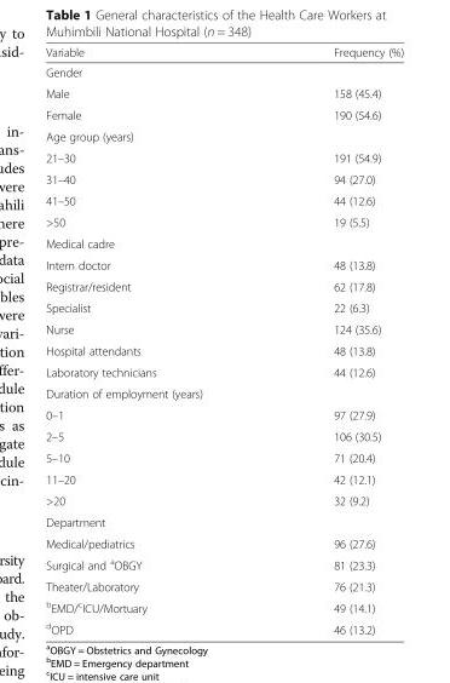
<table><thead><tr><td>Variable</td><td>Frequency (%)</td></tr></thead><tbody><tr><td colspan="2">Gender</td></tr><tr><td>Male</td><td>158 (45.4)</td></tr><tr><td>Female</td><td>190 (54.6)</td></tr><tr><td colspan="2">Age group (years)</td></tr><tr><td>21–30</td><td>191 (54.9)</td></tr><tr><td>31–40</td><td>94 (27.0)</td></tr><tr><td>41–50</td><td>44 (12.6)</td></tr><tr><td>&gt;50</td><td>19 (5.5)</td></tr><tr><td colspan="2">Medical cadre</td></tr><tr><td>Intern doctor</td><td>48 (13.8)</td></tr><tr><td>Registrar/resident</td><td>62 (17.8)</td></tr><tr><td>Specialist</td><td>22 (6.3)</td></tr><tr><td>Nurse</td><td>124 (35.6)</td></tr><tr><td>Hospital attendants</td><td>48 (13.8)</td></tr><tr><td>Laboratory technicians</td><td>44 (12.6)</td></tr><tr><td colspan="2">Duration of employment (years)</td></tr><tr><td>0–1</td><td>97 (27.9)</td></tr><tr><td>2–5</td><td>106 (30.5)</td></tr><tr><td>5–10</td><td>71 (20.4)</td></tr><tr><td>11–20</td><td>42 (12.1)</td></tr><tr><td>&gt;20</td><td>32 (9.2)</td></tr><tr><td colspan="2">Department</td></tr><tr><td>Medical/pediatrics</td><td>96 (27.6)</td></tr><tr><td>Surgical and <sup>a</sup>OBGY</td><td>81 (23.3)</td></tr><tr><td>Theater/Laboratory</td><td>76 (21.3)</td></tr><tr><td><sup>b</sup>EMD/<sup>c</sup>ICU/Mortuary</td><td>49 (14.1)</td></tr><tr><td><sup>d</sup>OPD</td><td>46 (13.2)</td></tr></tbody></table>